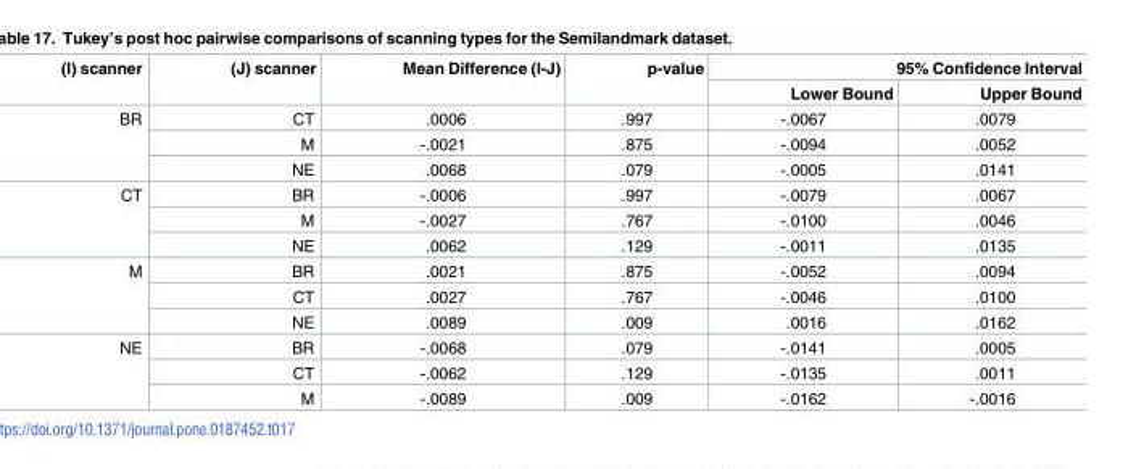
<table><thead><tr><td rowspan="2">(I) scanner</td><td rowspan="2">(J) scanner</td><td rowspan="2">Mean Difference (I-J)</td><td rowspan="2">p-value</td><td colspan="2">95% Confidence Interval</td></tr><tr><td>Lower Bound</td><td>Upper Bound</td></tr></thead><tbody><tr><td rowspan="3">BR</td><td>CT</td><td>.0006</td><td>.997</td><td>-.0067</td><td>.0079</td></tr><tr><td>M</td><td>-.0021</td><td>.875</td><td>-.0094</td><td>.0052</td></tr><tr><td>NE</td><td>.0068</td><td>.079</td><td>-.0005</td><td>.0141</td></tr><tr><td rowspan="3">CT</td><td>BR</td><td>-.0006</td><td>.997</td><td>-.0079</td><td>.0067</td></tr><tr><td>M</td><td>-.0027</td><td>.767</td><td>-.0100</td><td>.0046</td></tr><tr><td>NE</td><td>.0062</td><td>.129</td><td>-.0011</td><td>.0135</td></tr><tr><td rowspan="3">M</td><td>BR</td><td>.0021</td><td>.875</td><td>-.0052</td><td>.0094</td></tr><tr><td>CT</td><td>.0027</td><td>.767</td><td>-.0046</td><td>.0100</td></tr><tr><td>NE</td><td>.0089</td><td>.009</td><td>.0016</td><td>.0162</td></tr><tr><td rowspan="3">NE</td><td>BR</td><td>-.0068</td><td>.079</td><td>-.0141</td><td>.0005</td></tr><tr><td>CT</td><td>-.0062</td><td>.129</td><td>-.0135</td><td>.0011</td></tr><tr><td>M</td><td>-.0089</td><td>.009</td><td>-.0162</td><td>-.0016</td></tr></tbody></table>